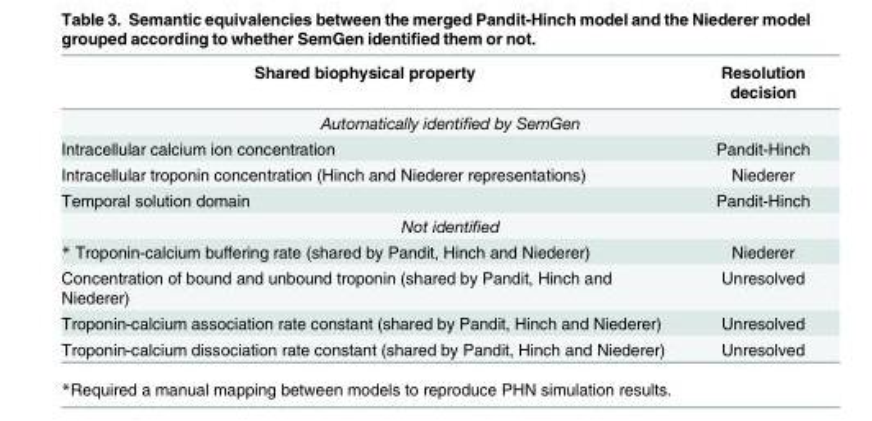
<table><thead><tr><td>Shared biophysical property</td><td>Resolution decision</td></tr></thead><tbody><tr><td colspan="2">Automatically identified by SemGen</td></tr><tr><td>Intracellular calcium ion concentration</td><td>Pandit-Hinch</td></tr><tr><td>Intracellular troponin concentration (Hinch and Niederer representations)</td><td>Niederer</td></tr><tr><td>Temporal solution domain</td><td>Pandit-Hinch</td></tr><tr><td colspan="2">Not identified</td></tr><tr><td>* Troponin-calcium buffering rate (shared by Pandit, Hinch and Niederer)</td><td>Niederer</td></tr><tr><td>Concentration of bound and unbound troponin (shared by Pandit, Hinch and Niederer)</td><td>Unresolved</td></tr><tr><td>Troponin-calcium association rate constant (shared by Pandit, Hinch and Niederer)</td><td>Unresolved</td></tr><tr><td>Troponin-calcium dissociation rate constant (shared by Pandit, Hinch and Niederer)</td><td>Unresolved</td></tr></tbody></table>